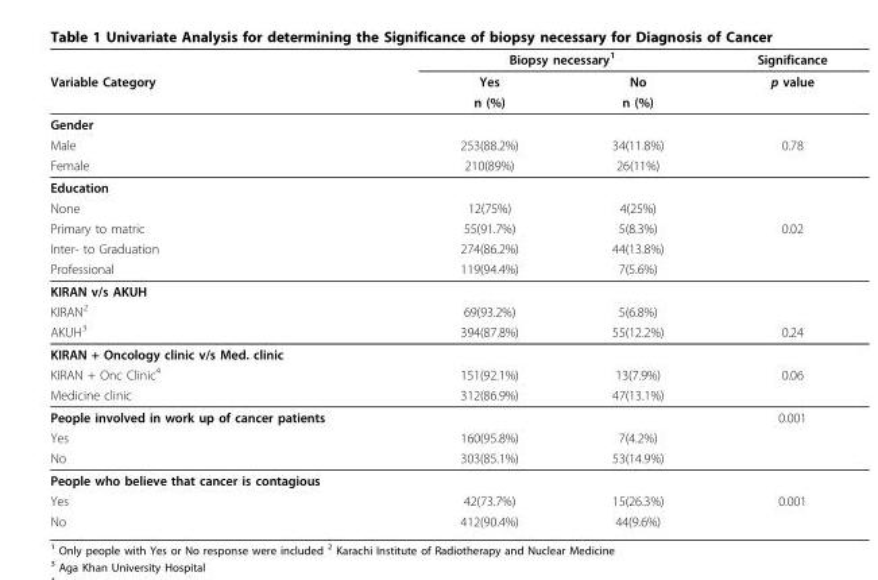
<table><thead><tr><td rowspan="3">Variable Category</td><td colspan="2">Biopsy necessary1</td><td rowspan="3">Significance p value</td></tr><tr><td rowspan="2">Yes n (%)</td><td rowspan="2">No n (%)</td></tr><tr></tr></thead><tbody><tr><td colspan="4">Gender</td></tr><tr><td>Male</td><td>253(88.2%)</td><td>34(11.8%)</td><td>0.78</td></tr><tr><td>Female</td><td>210(89%)</td><td>26(11%)</td><td></td></tr><tr><td colspan="4">Education</td></tr><tr><td>None</td><td>12(75%)</td><td>4(25%)</td><td></td></tr><tr><td>Primary to matric</td><td>55(91.7%)</td><td>5(8.3%)</td><td>0.02</td></tr><tr><td>Inter- to Graduation</td><td>274(86.2%)</td><td>44(13.8%)</td><td></td></tr><tr><td>Professional</td><td>119(94.4%)</td><td>7(5.6%)</td><td></td></tr><tr><td colspan="4">KIRAN v/s AKUH</td></tr><tr><td>KIRAN<sup>2</sup></td><td>69(93.2%)</td><td>5(6.8%)</td><td></td></tr><tr><td>AKUH<sup>3</sup></td><td>394(87.8%)</td><td>55(12.2%)</td><td>0.24</td></tr><tr><td colspan="4">KIRAN + Oncology clinic v/s Med. clinic</td></tr><tr><td>KIRAN + Onc Clinic<sup>4</sup></td><td>151(92.1%)</td><td>13(7.9%)</td><td>0.06</td></tr><tr><td>Medicine clinic</td><td>312(86.9%)</td><td>47(13.1%)</td><td></td></tr><tr><td>People involved in work up of cancer patients</td><td></td><td></td><td>0.001</td></tr><tr><td>Yes</td><td>160(95.8%)</td><td>7(4.2%)</td><td></td></tr><tr><td>No</td><td>303(85.1%)</td><td>53(14.9%)</td><td></td></tr><tr><td colspan="4">People who believe that cancer is contagious</td></tr><tr><td>Yes</td><td>42(73.7%)</td><td>15(26.3%)</td><td>0.001</td></tr><tr><td>No</td><td>412(90.4%)</td><td>44(9.6%)</td><td></td></tr></tbody></table>